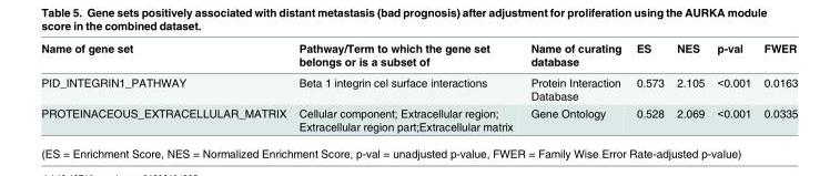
<table><thead><tr><td>Name of gene set</td><td>Pathway/Term to which the gene set belongs or is a subset of</td><td>Name of curating database</td><td>ES</td><td>NES</td><td>p-val</td><td>FWER</td></tr></thead><tbody><tr><td>PID_INTEGRIN1_PATHWAY</td><td>Beta 1 integrin cel surface interactions</td><td>Protein Interaction Database</td><td>0.573</td><td>2.105</td><td>&lt;0.001</td><td>0.0163</td></tr><tr><td>PROTEINACEOUS_EXTRACELLULAR_MATRIX</td><td>Cellular component; Extracellular region; Extracellular region part;Extracellular matrix</td><td>Gene Ontology</td><td>0.528</td><td>2.069</td><td>&lt;0.001</td><td>0.0335</td></tr></tbody></table>